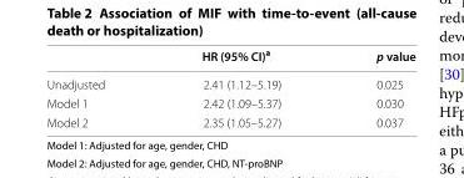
<table><thead><tr><td></td><td>HR (95% CI)<sup>a</sup></td><td>p value</td></tr></thead><tbody><tr><td>Unadjusted</td><td>2.41 (1.12–5.19)</td><td>0.025</td></tr><tr><td>Model 1</td><td>2.42 (1.09–5.37)</td><td>0.030</td></tr><tr><td>Model 2</td><td>2.35 (1.05–5.27)</td><td>0.037</td></tr></tbody></table>